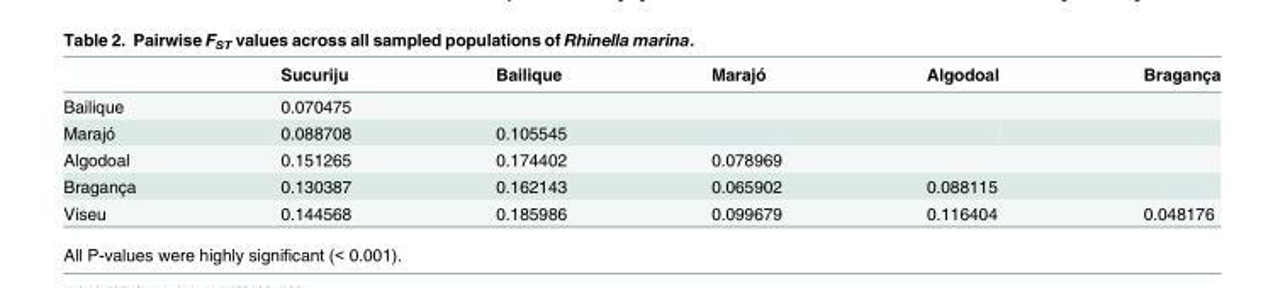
<table><thead><tr><td></td><td>Sucuriju</td><td>Bailique</td><td>Marajó</td><td>Algodoal</td><td>Bragança</td></tr></thead><tbody><tr><td>Bailique</td><td colspan="2">0.070475</td><td></td><td></td><td></td></tr><tr><td>Marajó</td><td>0.088708</td><td colspan="2">0.105545</td><td></td><td></td></tr><tr><td>Algodoal</td><td>0.151265</td><td>0.174402</td><td colspan="2">0.078969</td><td></td></tr><tr><td>Bragança</td><td>0.130387</td><td>0.162143</td><td>0.065902</td><td colspan="2">0.088115</td></tr><tr><td>Viseu</td><td>0.144568</td><td>0.185986</td><td>0.099679</td><td>0.116404</td><td>0.048176</td></tr></tbody></table>